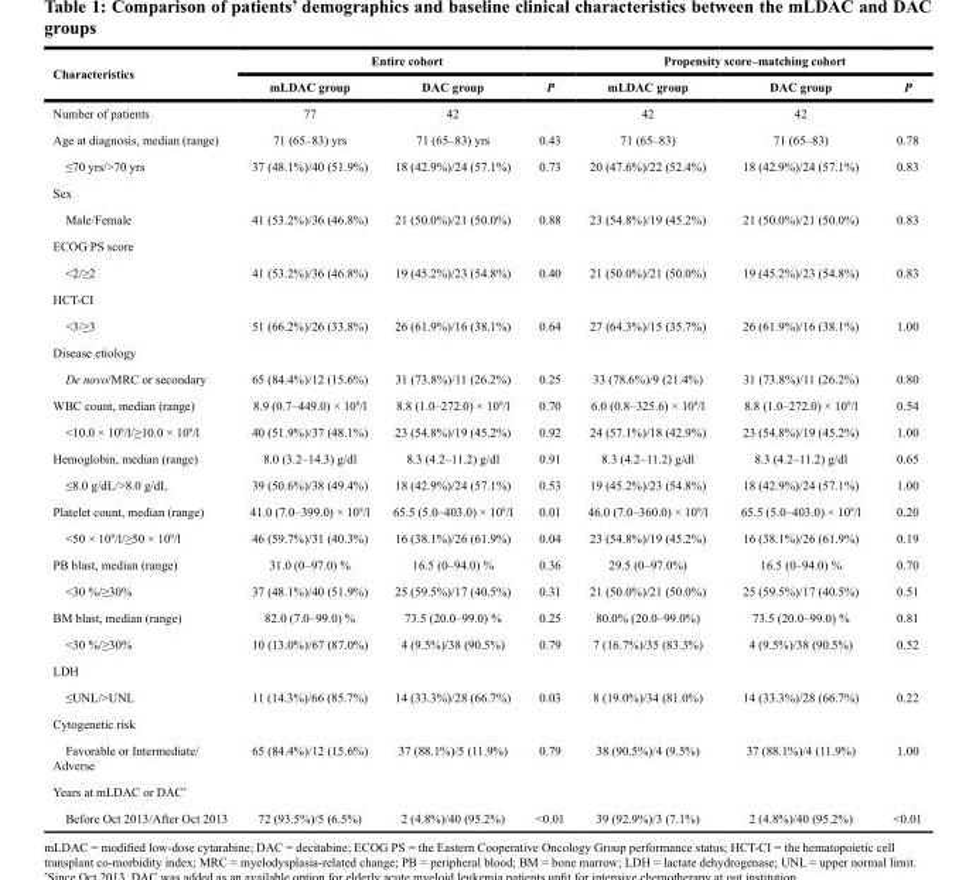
<table><thead><tr><td rowspan="2">Characteristics</td><td colspan="3">Entire cohort</td><td colspan="3">Propensity score–matching cohort</td></tr><tr><td>mLDAC group</td><td>DAC group</td><td>P</td><td>mLDAC group</td><td>DAC group</td><td>P</td></tr></thead><tbody><tr><td>Number of patients</td><td>77</td><td>42</td><td></td><td>42</td><td>42</td><td></td></tr><tr><td>Age at diagnosis, median (range)</td><td>71 (65–83) yrs</td><td>71 (65–83) yrs</td><td>0.43</td><td>71 (65–83)</td><td>71 (65–83)</td><td>0.78</td></tr><tr><td>≤70 yrs/&gt;70 yrs</td><td>37 (48.1%)/40 (51.9%)</td><td>18 (42.9%)/24 (57.1%)</td><td>0.73</td><td>20 (47.6%)/22 (52.4%)</td><td>18 (42.9%)/24 (57.1%)</td><td>0.83</td></tr><tr><td colspan="7">Sex</td></tr><tr><td>Male/Female</td><td>41 (53.2%)/36 (46.8%)</td><td>21 (50.0%)/21 (50.0%)</td><td>0.88</td><td>23 (54.8%)/19 (45.2%)</td><td>21 (50.0%)/21 (50.0%)</td><td>0.83</td></tr><tr><td colspan="7">ECOG PS score</td></tr><tr><td>&lt;2/≥2</td><td>41 (53.2%)/36 (46.8%)</td><td>19 (45.2%)/23 (54.8%)</td><td>0.40</td><td>21 (50.0%)/21 (50.0%)</td><td>19 (45.2%)/23 (54.8%)</td><td>0.83</td></tr><tr><td colspan="7">HCT-CI</td></tr><tr><td>&lt;3/≥3</td><td>51 (66.2%)/26 (33.8%)</td><td>26 (61.9%)/16 (38.1%)</td><td>0.64</td><td>27 (64.3%)/15 (35.7%)</td><td>26 (61.9%)/16 (38.1%)</td><td>1.00</td></tr><tr><td colspan="7">Disease etiology</td></tr><tr><td>De novo/MRC or secondary</td><td>65 (84.4%)/12 (15.6%)</td><td>31 (73.8%)/11 (26.2%)</td><td>0.25</td><td>33 (78.6%)/9 (21.4%)</td><td>31 (73.8%)/11 (26.2%)</td><td>0.80</td></tr><tr><td>WBC count, median (range)</td><td>8.9 (0.7–449.0) × 10<sup>9</sup>/l</td><td>8.8 (1.0–272.0) × 10<sup>9</sup>/l</td><td>0.70</td><td>6.0 (0.8–325.6) × 10<sup>9</sup>/l</td><td>8.8 (1.0–272.0) × 10<sup>9</sup>/l</td><td>0.54</td></tr><tr><td>&lt;10.0 × 10<sup>9</sup>/l/≥10.0 × 10<sup>9</sup>/l</td><td>40 (51.9%)/37 (48.1%)</td><td>23 (54.8%)/19 (45.2%)</td><td>0.92</td><td>24 (57.1%)/18 (42.9%)</td><td>23 (54.8%)/19 (45.2%)</td><td>1.00</td></tr><tr><td>Hemoglobin, median (range)</td><td>8.0 (3.2–14.3) g/dl</td><td>8.3 (4.2–11.2) g/dl</td><td>0.91</td><td>8.3 (4.2–11.2) g/dl</td><td>8.3 (4.2–11.2) g/dl</td><td>0.65</td></tr><tr><td>≤8.0 g/dL/&gt;8.0 g/dL</td><td>39 (50.6%)/38 (49.4%)</td><td>18 (42.9%)/24 (57.1%)</td><td>0.53</td><td>19 (45.2%)/23 (54.8%)</td><td>18 (42.9%)/24 (57.1%)</td><td>1.00</td></tr><tr><td>Platelet count, median (range)</td><td>41.0 (7.0–399.0) × 10<sup>9</sup>/l</td><td>65.5 (5.0–403.0) × 10<sup>9</sup>/l</td><td>0.01</td><td>46.0 (7.0–360.0) × 10<sup>9</sup>/l</td><td>65.5 (5.0–403.0) × 10<sup>9</sup>/l</td><td>0.20</td></tr><tr><td>&lt;50 × 10<sup>9</sup>/l/≥50 × 10<sup>9</sup>/l</td><td>46 (59.7%)/31 (40.3%)</td><td>16 (38.1%)/26 (61.9%)</td><td>0.04</td><td>23 (54.8%)/19 (45.2%)</td><td>16 (38.1%)/26 (61.9%)</td><td>0.19</td></tr><tr><td>PB blast, median (range)</td><td>31.0 (0–97.0) %</td><td>16.5 (0–94.0) %</td><td>0.36</td><td>29.5 (0–97.0%)</td><td>16.5 (0–94.0) %</td><td>0.70</td></tr><tr><td>&lt;30 %/≥30%</td><td>37 (48.1%)/40 (51.9%)</td><td>25 (59.5%)/17 (40.5%)</td><td>0.31</td><td>21 (50.0%)/21 (50.0%)</td><td>25 (59.5%)/17 (40.5%)</td><td>0.51</td></tr><tr><td>BM blast, median (range)</td><td>82.0 (7.0–99.0) %</td><td>73.5 (20.0–99.0) %</td><td>0.25</td><td>80.0% (20.0–99.0%)</td><td>73.5 (20.0–99.0) %</td><td>0.81</td></tr><tr><td>&lt;30 %/≥30%</td><td>10 (13.0%)/67 (87.0%)</td><td>4 (9.5%)/38 (90.5%)</td><td>0.79</td><td>7 (16.7%)/35 (83.3%)</td><td>4 (9.5%)/38 (90.5%)</td><td>0.52</td></tr><tr><td colspan="7">LDH</td></tr><tr><td>≤UNL/&gt;UNL</td><td>11 (14.3%)/66 (85.7%)</td><td>14 (33.3%)/28 (66.7%)</td><td>0.03</td><td>8 (19.0%)/34 (81.0%)</td><td>14 (33.3%)/28 (66.7%)</td><td>0.22</td></tr><tr><td colspan="7">Cytogenetic risk</td></tr><tr><td>Favorable or Intermediate/ Adverse</td><td>65 (84.4%)/12 (15.6%)</td><td>37 (88.1%)/5 (11.9%)</td><td>0.79</td><td>38 (90.5%)/4 (9.5%)</td><td>37 (88.1%)/4 (11.9%)</td><td>1.00</td></tr><tr><td colspan="7">Years at mLDAC or DAC*</td></tr><tr><td>Before Oct 2013/After Oct 2013</td><td>72 (93.5%)/5 (6.5%)</td><td>2 (4.8%)/40 (95.2%)</td><td>&lt;0.01</td><td>39 (92.9%)/3 (7.1%)</td><td>2 (4.8%)/40 (95.2%)</td><td>&lt;0.01</td></tr></tbody></table>